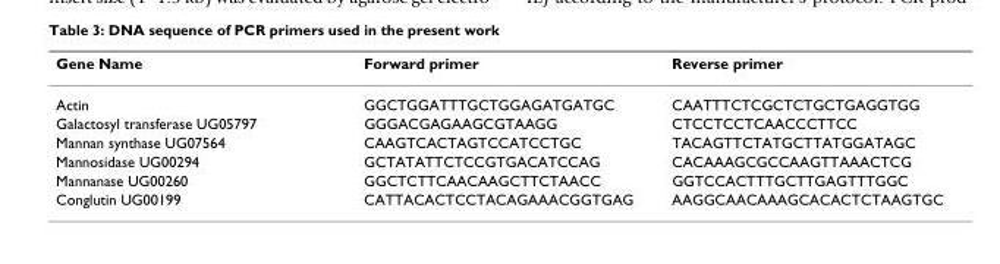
<table><thead><tr><td>Gene Name</td><td>Forward primer</td><td>Reverse primer</td></tr></thead><tbody><tr><td>Actin</td><td>GGCTGGATTTGCTGGAGATGATGC</td><td>CAATTTCTCGCTCTGCTGAGGTGG</td></tr><tr><td>Galactosyl transferase UG05797</td><td>GGGACGAGAAGCGTAAGG</td><td>CTCCTCCTCAACCCTTCC</td></tr><tr><td>Mannan synthase UG07564</td><td>CAAGTCACTAGTCCATCCTGC</td><td>TACAGTTCTATGCTTATGGATAGC</td></tr><tr><td>Mannosidase UG00294</td><td>GCTATATTCTCCGTGACATCCAG</td><td>CACAAAGCGCCAAGTTAAACTCG</td></tr><tr><td>Mannanase UG00260</td><td>GGCTCTTCAACAAGCTTCTAACC</td><td>GGTCCACTTTGCTTGAGTTTGGC</td></tr><tr><td>Conglutin UG00199</td><td>CATTACACTCCTACAGAAACGGTGAG</td><td>AAGGCAACAAAGCACACTCTAAGTGC</td></tr></tbody></table>